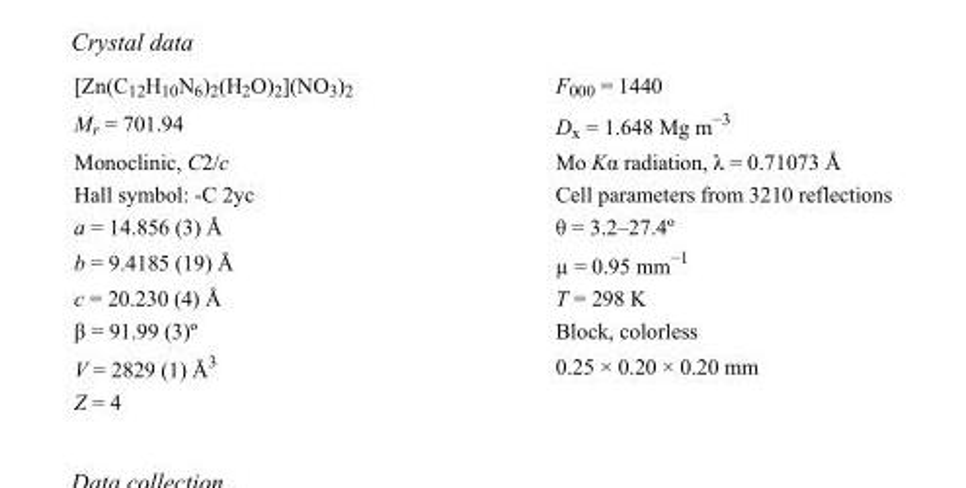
<table><tbody><tr><td>[Zn(C<sub>12</sub>H<sub>10</sub>N<sub>6</sub>)<sub>2</sub>(H<sub>2</sub>O)<sub>2</sub>](NO<sub>3</sub>)<sub>2</sub></td><td>F000 = 1440</td></tr><tr><td>M<sub>r</sub> = 701.94</td><td>D<sub>x</sub> = 1.648 Mg m<sup>−3</sup></td></tr><tr><td>Monoclinic, C2/c</td><td>Mo Kα radiation, λ = 0.71073 Å</td></tr><tr><td>Hall symbol: -C 2yc</td><td>Cell parameters from 3210 reflections</td></tr><tr><td>a = 14.856 (3) Å</td><td>θ = 3.2–27.4º</td></tr><tr><td>b = 9.4185 (19) Å</td><td>µ = 0.95 mm<sup>−1</sup></td></tr><tr><td>c = 20.230 (4) Å</td><td>T = 298 K</td></tr><tr><td>β = 91.99 (3)º</td><td>Block, colorless</td></tr><tr><td>V = 2829 (1) Å<sup>3</sup></td><td>0.25 × 0.20 × 0.20 mm</td></tr><tr><td>Z = 4</td><td></td></tr></tbody></table>